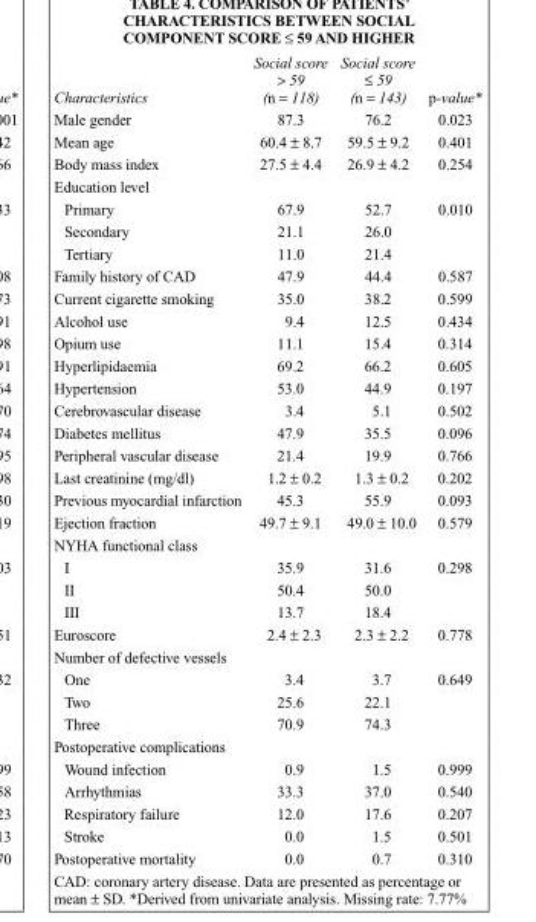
<table><thead><tr><td>Characteristics</td><td>Social score &gt; 59 (n = 118)</td><td>Social score ≤ 59 (n = 143)</td><td>p-value*</td></tr></thead><tbody><tr><td>Male gender</td><td>87.3</td><td>76.2</td><td>0.023</td></tr><tr><td>Mean age</td><td>60.4 ± 8.7</td><td>59.5 ± 9.2</td><td>0.401</td></tr><tr><td>Body mass index</td><td>27.5 ± 4.4</td><td>26.9 ± 4.2</td><td>0.254</td></tr><tr><td colspan="4">Education level</td></tr><tr><td>Primary</td><td>67.9</td><td>52.7</td><td>0.010</td></tr><tr><td>Secondary</td><td>21.1</td><td>26.0</td><td></td></tr><tr><td>Tertiary</td><td>11.0</td><td>21.4</td><td></td></tr><tr><td>Family history of CAD</td><td>47.9</td><td>44.4</td><td>0.587</td></tr><tr><td>Current cigarette smoking</td><td>35.0</td><td>38.2</td><td>0.599</td></tr><tr><td>Alcohol use</td><td>9.4</td><td>12.5</td><td>0.434</td></tr><tr><td>Opium use</td><td>11.1</td><td>15.4</td><td>0.314</td></tr><tr><td>Hyperlipidaemia</td><td>69.2</td><td>66.2</td><td>0.605</td></tr><tr><td>Hypertension</td><td>53.0</td><td>44.9</td><td>0.197</td></tr><tr><td>Cerebrovascular disease</td><td>3.4</td><td>5.1</td><td>0.502</td></tr><tr><td>Diabetes mellitus</td><td>47.9</td><td>35.5</td><td>0.096</td></tr><tr><td>Peripheral vascular disease</td><td>21.4</td><td>19.9</td><td>0.766</td></tr><tr><td>Last creatinine (mg/dl)</td><td>1.2 ± 0.2</td><td>1.3 ± 0.2</td><td>0.202</td></tr><tr><td>Previous myocardial infarction</td><td>45.3</td><td>55.9</td><td>0.093</td></tr><tr><td>Ejection fraction</td><td>49.7 ± 9.1</td><td>49.0 ± 10.0</td><td>0.579</td></tr><tr><td colspan="4">NYHA functional class</td></tr><tr><td>I</td><td>35.9</td><td>31.6</td><td>0.298</td></tr><tr><td>II</td><td>50.4</td><td>50.0</td><td></td></tr><tr><td>III</td><td>13.7</td><td>18.4</td><td></td></tr><tr><td>Euroscore</td><td>2.4 ± 2.3</td><td>2.3 ± 2.2</td><td>0.778</td></tr><tr><td colspan="4">Number of defective vessels</td></tr><tr><td>One</td><td>3.4</td><td>3.7</td><td>0.649</td></tr><tr><td>Two</td><td>25.6</td><td>22.1</td><td></td></tr><tr><td>Three</td><td>70.9</td><td>74.3</td><td></td></tr><tr><td colspan="4">Postoperative complications</td></tr><tr><td>Wound infection</td><td>0.9</td><td>1.5</td><td>0.999</td></tr><tr><td>Arrhythmias</td><td>33.3</td><td>37.0</td><td>0.540</td></tr><tr><td>Respiratory failure</td><td>12.0</td><td>17.6</td><td>0.207</td></tr><tr><td>Stroke</td><td>0.0</td><td>1.5</td><td>0.501</td></tr><tr><td>Postoperative mortality</td><td>0.0</td><td>0.7</td><td>0.310</td></tr></tbody></table>